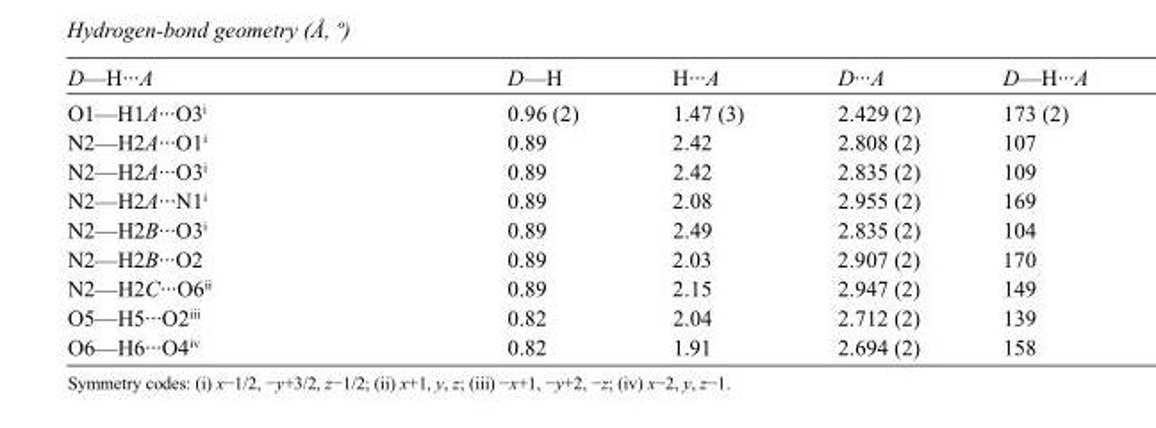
<table><tbody><tr><td>D—H···A</td><td>D—H</td><td>H···A</td><td>D···A</td><td>D—H···A</td></tr><tr><td>O1—H1A···O3<sup>i</sup></td><td>0.96 (2)</td><td>1.47 (3)</td><td>2.429 (2)</td><td>173 (2)</td></tr><tr><td>N2—H2A···O1<sup>i</sup></td><td>0.89</td><td>2.42</td><td>2.808 (2)</td><td>107</td></tr><tr><td>N2—H2A···O3<sup>i</sup></td><td>0.89</td><td>2.42</td><td>2.835 (2)</td><td>109</td></tr><tr><td>N2—H2A···N1<sup>i</sup></td><td>0.89</td><td>2.08</td><td>2.955 (2)</td><td>169</td></tr><tr><td>N2—H2B···O3<sup>i</sup></td><td>0.89</td><td>2.49</td><td>2.835 (2)</td><td>104</td></tr><tr><td>N2—H2B···O2</td><td>0.89</td><td>2.03</td><td>2.907 (2)</td><td>170</td></tr><tr><td>N2—H2C···O6<sup>ii</sup></td><td>0.89</td><td>2.15</td><td>2.947 (2)</td><td>149</td></tr><tr><td>O5—H5···O2<sup>iii</sup></td><td>0.82</td><td>2.04</td><td>2.712 (2)</td><td>139</td></tr><tr><td>O6—H6···O4<sup>iv</sup></td><td>0.82</td><td>1.91</td><td>2.694 (2)</td><td>158</td></tr></tbody></table>